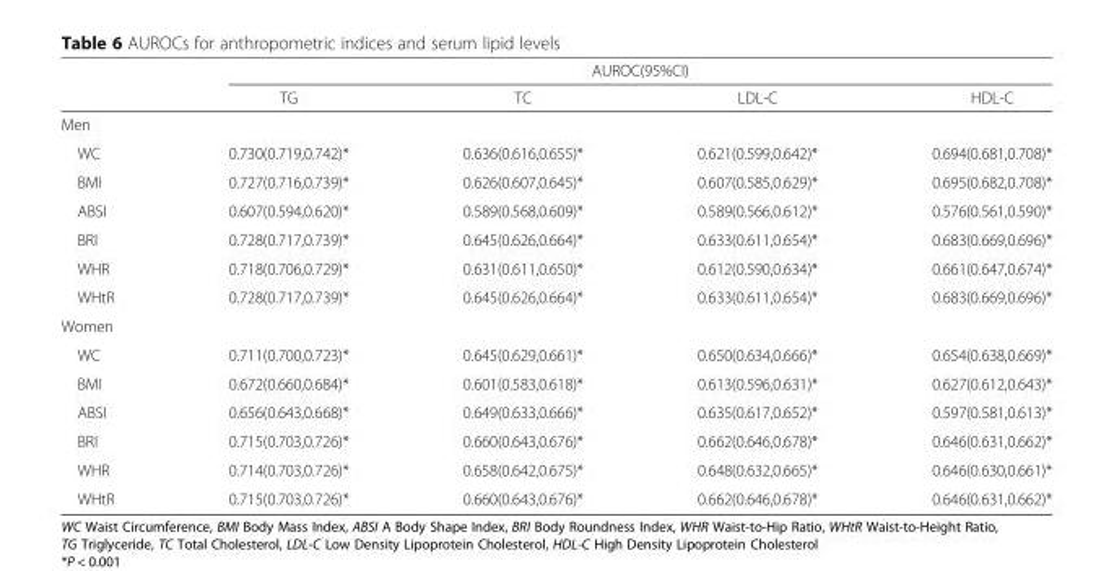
<table><thead><tr><td rowspan="2"></td><td colspan="4">AUROC(95%CI)</td></tr><tr><td>TG</td><td>TC</td><td>LDL-C</td><td>HDL-C</td></tr></thead><tbody><tr><td colspan="5">Men</td></tr><tr><td>WC</td><td>0.730(0.719,0.742)*</td><td>0.636(0.616,0.655)*</td><td>0.621(0.599,0.642)*</td><td>0.694(0.681,0.708)*</td></tr><tr><td>BMI</td><td>0.727(0.716,0.739)*</td><td>0.626(0.607,0.645)*</td><td>0.607(0.585,0.629)*</td><td>0.695(0.682,0.708)*</td></tr><tr><td>ABSI</td><td>0.607(0.594,0.620)*</td><td>0.589(0.568,0.609)*</td><td>0.589(0.566,0.612)*</td><td>0.576(0.561,0.590)*</td></tr><tr><td>BRI</td><td>0.728(0.717,0.739)*</td><td>0.645(0.626,0.664)*</td><td>0.633(0.611,0.654)*</td><td>0.683(0.669,0.696)*</td></tr><tr><td>WHR</td><td>0.718(0.706,0.729)*</td><td>0.631(0.611,0.650)*</td><td>0.612(0.590,0.634)*</td><td>0.661(0.647,0.674)*</td></tr><tr><td>WHtR</td><td>0.728(0.717,0.739)*</td><td>0.645(0.626,0.664)*</td><td>0.633(0.611,0.654)*</td><td>0.683(0.669,0.696)*</td></tr><tr><td colspan="5">Women</td></tr><tr><td>WC</td><td>0.711(0.700,0.723)*</td><td>0.645(0.629,0.661)*</td><td>0.650(0.634,0.666)*</td><td>0.654(0.638,0.669)*</td></tr><tr><td>BMI</td><td>0.672(0.660,0.684)*</td><td>0.601(0.583,0.618)*</td><td>0.613(0.596,0.631)*</td><td>0.627(0.612,0.643)*</td></tr><tr><td>ABSI</td><td>0.656(0.643,0.668)*</td><td>0.649(0.633,0.666)*</td><td>0.635(0.617,0.652)*</td><td>0.597(0.581,0.613)*</td></tr><tr><td>BRI</td><td>0.715(0.703,0.726)*</td><td>0.660(0.643,0.676)*</td><td>0.662(0.646,0.678)*</td><td>0.646(0.631,0.662)*</td></tr><tr><td>WHR</td><td>0.714(0.703,0.726)*</td><td>0.658(0.642,0.675)*</td><td>0.648(0.632,0.665)*</td><td>0.646(0.630,0.661)*</td></tr><tr><td>WHtR</td><td>0.715(0.703,0.726)*</td><td>0.660(0.643,0.676)*</td><td>0.662(0.646,0.678)*</td><td>0.646(0.631,0.662)*</td></tr></tbody></table>